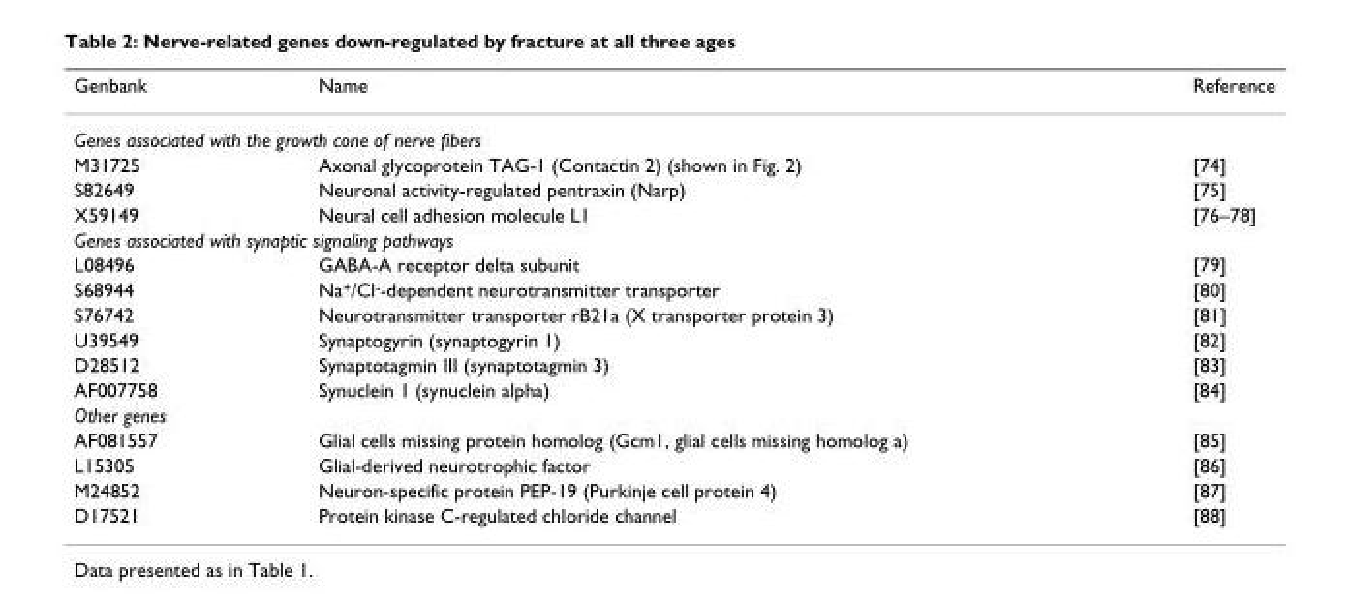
<table><thead><tr><td>Genbank</td><td>Name</td><td>Reference</td></tr></thead><tbody><tr><td colspan="3">Genes associated with the growth cone of nerve fibers</td></tr><tr><td>M31725</td><td>Axonal glycoprotein TAG-1 (Contactin 2) (shown in Fig. 2)</td><td>[74]</td></tr><tr><td>S82649</td><td>Neuronal activity-regulated pentraxin (Narp)</td><td>[75]</td></tr><tr><td>X59149</td><td>Neural cell adhesion molecule L1</td><td>[76–78]</td></tr><tr><td colspan="3">Genes associated with synaptic signaling pathways</td></tr><tr><td>L08496</td><td>GABA-A receptor delta subunit</td><td>[79]</td></tr><tr><td>S68944</td><td>Na+/Cl--dependent neurotransmitter transporter</td><td>[80]</td></tr><tr><td>S76742</td><td>Neurotransmitter transporter rB21a (X transporter protein 3)</td><td>[81]</td></tr><tr><td>U39549</td><td>Synaptogyrin (synaptogyrin 1)</td><td>[82]</td></tr><tr><td>D28512</td><td>Synaptotagmin III (synaptotagmin 3)</td><td>[83]</td></tr><tr><td>AF007758</td><td>Synuclein 1 (synuclein alpha)</td><td>[84]</td></tr><tr><td colspan="3">Other genes</td></tr><tr><td>AF081557</td><td>Glial cells missing protein homolog (Gcm1, glial cells missing homolog a)</td><td>[85]</td></tr><tr><td>L15305</td><td>Glial-derived neurotrophic factor</td><td>[86]</td></tr><tr><td>M24852</td><td>Neuron-specific protein PEP-19 (Purkinje cell protein 4)</td><td>[87]</td></tr><tr><td>D17521</td><td>Protein kinase C-regulated chloride channel</td><td>[88]</td></tr></tbody></table>